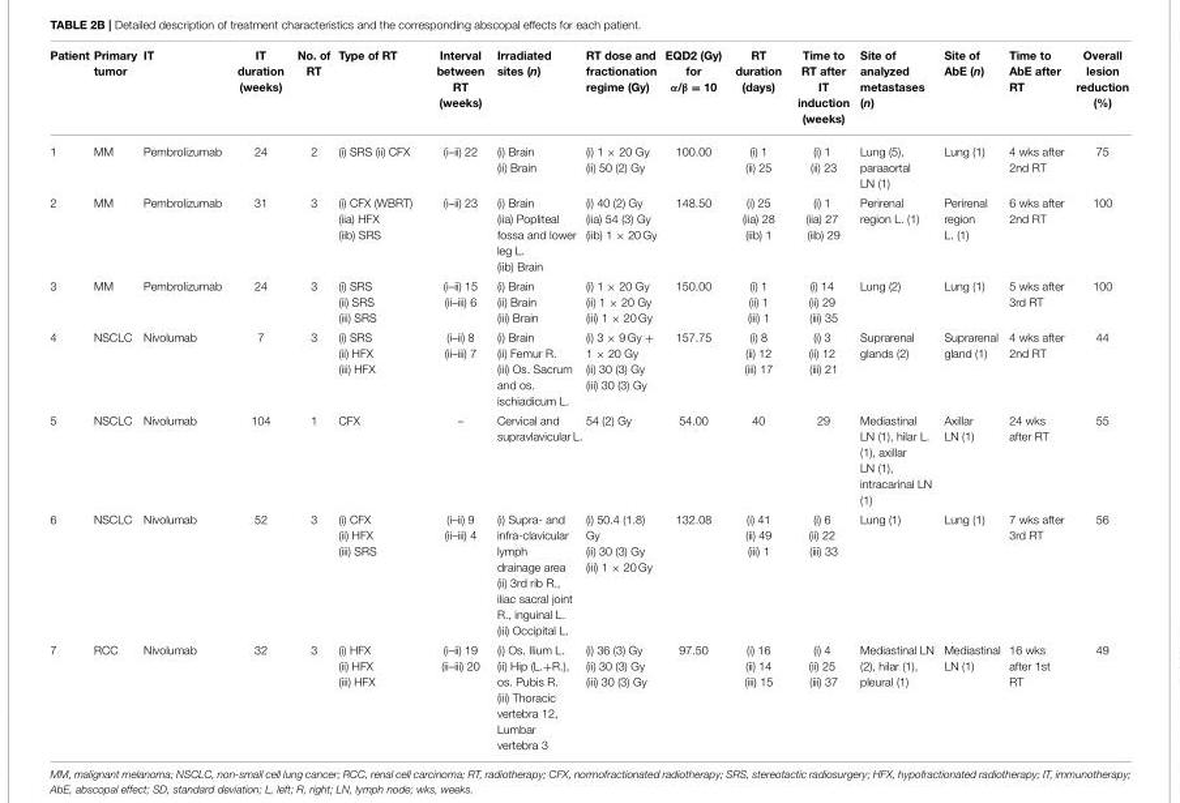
<table><thead><tr><td>Patient</td><td>Primary tumor</td><td>IT</td><td>IT duration (weeks)</td><td>No. of RT</td><td>Type of RT</td><td>Interval between RT (weeks)</td><td>Irradiated sites (n)</td><td>RT dose and fractionation regime (Gy)</td><td>EQD2 (Gy) for α/β = 10</td><td>RT duration (days)</td><td>Time to RT after IT induction (weeks)</td><td>Site of analyzed metastases (n)</td><td>Site of AbE (n)</td><td>Time to AbE after RT</td><td>Overall lesion reduction (%)</td></tr></thead><tbody><tr><td>1</td><td>MM</td><td>Pembrolizumab</td><td>24</td><td>2</td><td>(i) SRS (ii) CFX</td><td>(i–ii) 22</td><td>(i) Brain (ii) Brain</td><td>(i) 1 × 20 Gy (ii) 50 (2) Gy</td><td>100.00</td><td>(i) 1 (ii) 25</td><td>(i) 1 (ii) 23</td><td>Lung (5), paraaortal LN (1)</td><td>Lung (1)</td><td>4 wks after 2nd RT</td><td>75</td></tr><tr><td>2</td><td>MM</td><td>Pembrolizumab</td><td>31</td><td>3</td><td>(i) CFX (WBRT) (iia) HFX (iib) SRS</td><td>(i–ii) 23</td><td>(i) Brain (iia) Popliteal fossa and lower leg L. (iib) Brain</td><td>(i) 40 (2) Gy (iia) 54 (3) Gy (iib) 1 × 20 Gy</td><td>148.50</td><td>(i) 25 (iia) 28 (iib) 1</td><td>(i) 1 (iia) 27 (iib) 29</td><td>Perirenal region L. (1)</td><td>Perirenal region L. (1)</td><td>6 wks after 2nd RT</td><td>100</td></tr><tr><td>3</td><td>MM</td><td>Pembrolizumab</td><td>24</td><td>3</td><td>(i) SRS (ii) SRS (iii) SRS</td><td>(i–ii) 15 (ii–iii) 6</td><td>(i) Brain (ii) Brain (iii) Brain</td><td>(i) 1 × 20 Gy (ii) 1 × 20 Gy (iii) 1 × 20 Gy</td><td>150.00</td><td>(i) 1 (ii) 1 (iii) 1</td><td>(i) 14 (ii) 29 (iii) 35</td><td>Lung (2)</td><td>Lung (1)</td><td>5 wks after 3rd RT</td><td>100</td></tr><tr><td>4</td><td>NSCLC</td><td>Nivolumab</td><td>7</td><td>3</td><td>(i) SRS (ii) HFX (iii) HFX</td><td>(i–ii) 8 (ii–iii) 7</td><td>(i) Brain (ii) Femur R. (iii) Os. Sacrum and os. ischiadicum L.</td><td>(i) 3 × 9 Gy + 1 × 20 Gy (ii) 30 (3) Gy (iii) 30 (3) Gy</td><td>157.75</td><td>(i) 8 (ii) 12 (iii) 17</td><td>(i) 3 (ii) 12 (iii) 21</td><td>Suprarenal glands (2)</td><td>Suprarenal gland (1)</td><td>4 wks after 2nd RT</td><td>44</td></tr><tr><td>5</td><td>NSCLC</td><td>Nivolumab</td><td>104</td><td>1</td><td>CFX</td><td>–</td><td>Cervical and supravlavicular L.</td><td>54 (2) Gy</td><td>54.00</td><td>40</td><td>29</td><td>Mediastinal LN (1), hilar L. (1), axillar LN (1), intracarinal LN (1)</td><td>Axillar LN (1)</td><td>24 wks after RT</td><td>55</td></tr><tr><td>6</td><td>NSCLC</td><td>Nivolumab</td><td>52</td><td>3</td><td>(i) CFX (ii) HFX (iii) SRS</td><td>(i–ii) 9 (ii–iii) 4</td><td>(i) Supra- and infra-clavicular lymph drainage area (ii) 3rd rib R., iliac sacral joint R., inguinal L. (iii) Occipital L.</td><td>(i) 50.4 (1.8) Gy (ii) 30 (3) Gy (iii) 1 × 20 Gy</td><td>132.08</td><td>(i) 41 (ii) 49 (iii) 1</td><td>(i) 6 (ii) 22 (iii) 33</td><td>Lung (1)</td><td>Lung (1)</td><td>7 wks after 3rd RT</td><td>56</td></tr><tr><td>7</td><td>RCC</td><td>Nivolumab</td><td>32</td><td>3</td><td>(i) HFX (ii) HFX (iii) HFX</td><td>(i–ii) 19 (ii–iii) 20</td><td>(i) Os. Ilium L. (ii) Hip (L.+R.), os. Pubis R. (iii) Thoracic vertebra 12, Lumbar vertebra 3</td><td>(i) 36 (3) Gy (ii) 30 (3) Gy (iii) 30 (3) Gy</td><td>97.50</td><td>(i) 16 (ii) 14 (iii) 15</td><td>(i) 4 (ii) 25 (iii) 37</td><td>Mediastinal LN (2), hilar (1), pleural (1)</td><td>Mediastinal LN (1)</td><td>16 wks after 1st RT</td><td>49</td></tr></tbody></table>